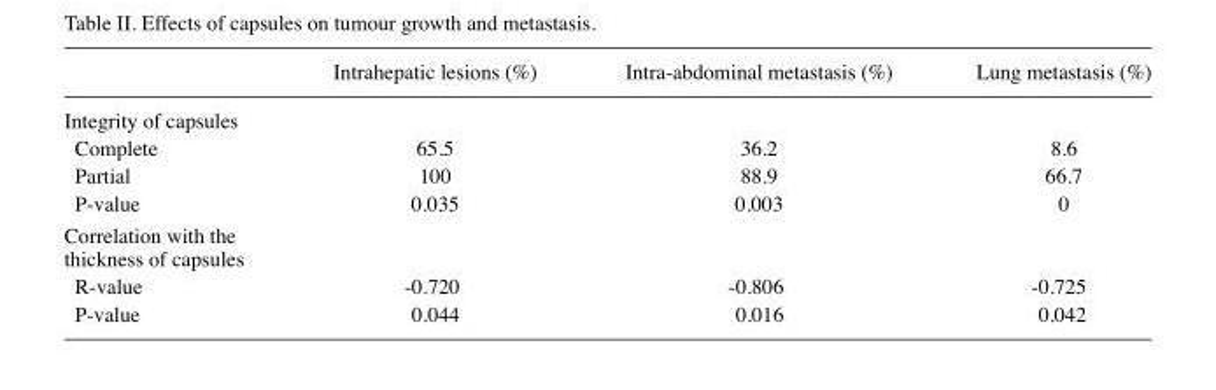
<table><thead><tr><td></td><td>Intrahepatic lesions (%)</td><td>Intra‑abdominal metastasis (%)</td><td>Lung metastasis (%)</td></tr></thead><tbody><tr><td colspan="4">Integrity of capsules</td></tr><tr><td>Complete</td><td>65.5</td><td>36.2</td><td>8.6</td></tr><tr><td>Partial</td><td>100</td><td>88.9</td><td>66.7</td></tr><tr><td>P-value</td><td>0.035</td><td>0.003</td><td>0</td></tr><tr><td colspan="4">Correlation with the thickness of capsules</td></tr><tr><td>R-value</td><td>-0.720</td><td>-0.806</td><td>-0.725</td></tr><tr><td>P‑value</td><td>0.044</td><td>0.016</td><td>0.042</td></tr></tbody></table>